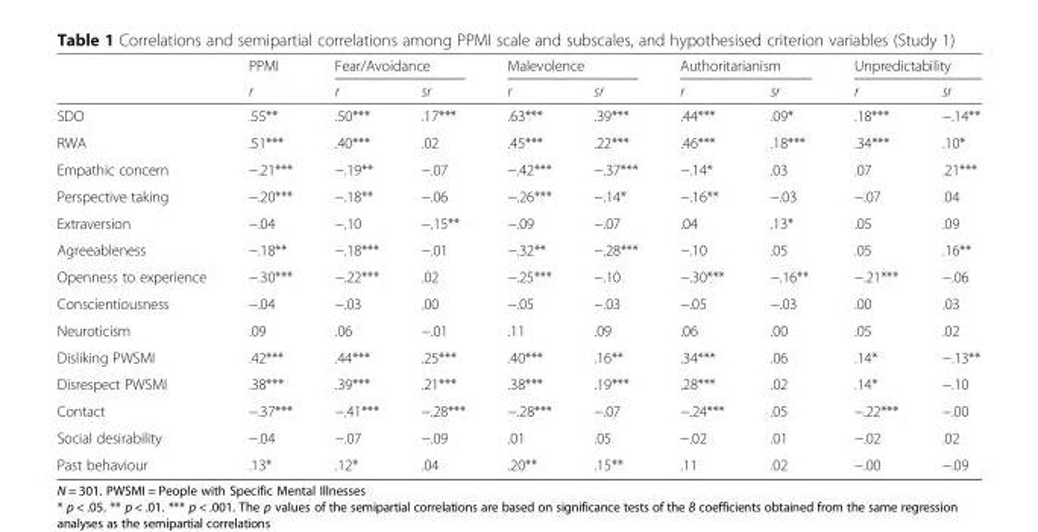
<table><thead><tr><td rowspan="2"></td><td rowspan="2">PPMI r</td><td colspan="2">Fear/Avoidance</td><td colspan="2">Malevolence</td><td colspan="2">Authoritarianism</td><td colspan="2">Unpredictability</td></tr><tr><td>r</td><td>sr</td><td>r</td><td>sr</td><td>r</td><td>sr</td><td>r</td><td>sr</td></tr></thead><tbody><tr><td>SDO</td><td>.55**</td><td>.50***</td><td>.17***</td><td>.63***</td><td>.39***</td><td>.44***</td><td>.09*</td><td>.18***</td><td>−.14**</td></tr><tr><td>RWA</td><td>.51***</td><td>.40***</td><td>.02</td><td>.45***</td><td>.22***</td><td>.46***</td><td>.18***</td><td>.34***</td><td>.10*</td></tr><tr><td>Empathic concern</td><td>−.21***</td><td>−.19**</td><td>−.07</td><td>−.42***</td><td>−.37***</td><td>−.14*</td><td>.03</td><td>.07</td><td>.21***</td></tr><tr><td>Perspective taking</td><td>−.20***</td><td>−.18**</td><td>−.06</td><td>−.26***</td><td>−.14*</td><td>−.16**</td><td>−.03</td><td>−.07</td><td>.04</td></tr><tr><td>Extraversion</td><td>−.04</td><td>−.10</td><td>−.15**</td><td>−.09</td><td>−.07</td><td>.04</td><td>.13*</td><td>.05</td><td>.09</td></tr><tr><td>Agreeableness</td><td>−.18**</td><td>−.18***</td><td>−.01</td><td>−.32**</td><td>−.28***</td><td>−.10</td><td>.05</td><td>.05</td><td>.16**</td></tr><tr><td>Openness to experience</td><td>−.30***</td><td>−.22***</td><td>.02</td><td>−.25***</td><td>−.10</td><td>−.30***</td><td>−.16**</td><td>−.21***</td><td>−.06</td></tr><tr><td>Conscientiousness</td><td>−.04</td><td>−.03</td><td>.00</td><td>−.05</td><td>−.03</td><td>−.05</td><td>−.03</td><td>.00</td><td>.03</td></tr><tr><td>Neuroticism</td><td>.09</td><td>.06</td><td>−.01</td><td>.11</td><td>.09</td><td>.06</td><td>.00</td><td>.05</td><td>.02</td></tr><tr><td>Disliking PWSMI</td><td>.42***</td><td>.44***</td><td>.25***</td><td>.40***</td><td>.16**</td><td>.34***</td><td>.06</td><td>.14*</td><td>−.13**</td></tr><tr><td>Disrespect PWSMI</td><td>.38***</td><td>.39***</td><td>.21***</td><td>.38***</td><td>.19***</td><td>.28***</td><td>.02</td><td>.14*</td><td>−.10</td></tr><tr><td>Contact</td><td>−.37***</td><td>−.41***</td><td>−.28***</td><td>−.28***</td><td>−.07</td><td>−.24***</td><td>.05</td><td>−.22***</td><td>−.00</td></tr><tr><td>Social desirability</td><td>−.04</td><td>−.07</td><td>−.09</td><td>.01</td><td>.05</td><td>−.02</td><td>.01</td><td>−.02</td><td>.02</td></tr><tr><td>Past behaviour</td><td>.13*</td><td>.12*</td><td>.04</td><td>.20**</td><td>.15**</td><td>.11</td><td>.02</td><td>−.00</td><td>−.09</td></tr></tbody></table>